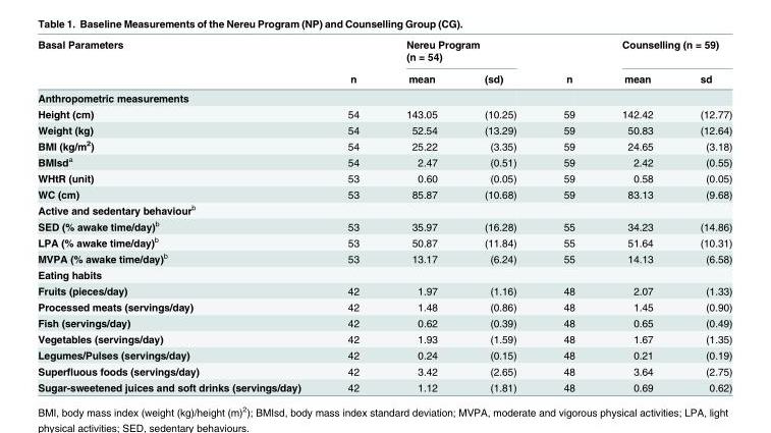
<table><thead><tr><td rowspan="2">Basal Parameters</td><td rowspan="2">n</td><td colspan="2">Nereu Program (n = 54)</td><td rowspan="2">n</td><td colspan="2">Counselling (n = 59)</td></tr><tr><td>mean</td><td>(sd)</td><td>mean</td><td>sd</td></tr></thead><tbody><tr><td colspan="7">Anthropometric measurements</td></tr><tr><td>Height (cm)</td><td>54</td><td>143.05</td><td>(10.25)</td><td>59</td><td>142.42</td><td>(12.77)</td></tr><tr><td>Weight (kg)</td><td>54</td><td>52.54</td><td>(13.29)</td><td>59</td><td>50.83</td><td>(12.64)</td></tr><tr><td>BMI (kg/m<sup>2</sup>)</td><td>54</td><td>25.22</td><td>(3.35)</td><td>59</td><td>24.65</td><td>(3.18)</td></tr><tr><td>BMIsd<sup>a</sup></td><td>54</td><td>2.47</td><td>(0.51)</td><td>59</td><td>2.42</td><td>(0.55)</td></tr><tr><td>WHtR (unit)</td><td>53</td><td>0.60</td><td>(0.05)</td><td>59</td><td>0.58</td><td>(0.05)</td></tr><tr><td>WC (cm)</td><td>53</td><td>85.87</td><td>(10.68)</td><td>59</td><td>83.13</td><td>(9.68)</td></tr><tr><td colspan="7">Active and sedentary behaviour<sup>b</sup></td></tr><tr><td>SED (% awake time/day)<sup>b</sup></td><td>53</td><td>35.97</td><td>(16.28)</td><td>55</td><td>34.23</td><td>(14.86)</td></tr><tr><td>LPA (% awake time/day)<sup>b</sup></td><td>53</td><td>50.87</td><td>(11.84)</td><td>55</td><td>51.64</td><td>(10.31)</td></tr><tr><td>MVPA (% awake time/day)<sup>b</sup></td><td>53</td><td>13.17</td><td>(6.24)</td><td>55</td><td>14.13</td><td>(6.58)</td></tr><tr><td colspan="7">Eating habits</td></tr><tr><td>Fruits (pieces/day)</td><td>42</td><td>1.97</td><td>(1.16)</td><td>48</td><td>2.07</td><td>(1.33)</td></tr><tr><td>Processed meats (servings/day)</td><td>42</td><td>1.48</td><td>(0.86)</td><td>48</td><td>1.45</td><td>(0.90)</td></tr><tr><td>Fish (servings/day)</td><td>42</td><td>0.62</td><td>(0.39)</td><td>48</td><td>0.65</td><td>(0.49)</td></tr><tr><td>Vegetables (servings/day)</td><td>42</td><td>1.93</td><td>(1.59)</td><td>48</td><td>1.67</td><td>(1.35)</td></tr><tr><td>Legumes/Pulses (servings/day)</td><td>42</td><td>0.24</td><td>(0.15)</td><td>48</td><td>0.21</td><td>(0.19)</td></tr><tr><td>Superfluous foods (servings/day)</td><td>42</td><td>3.42</td><td>(2.65)</td><td>48</td><td>3.64</td><td>(2.75)</td></tr><tr><td>Sugar-sweetened juices and soft drinks (servings/day)</td><td>42</td><td>1.12</td><td>(1.81)</td><td>48</td><td>0.69</td><td>0.62)</td></tr></tbody></table>